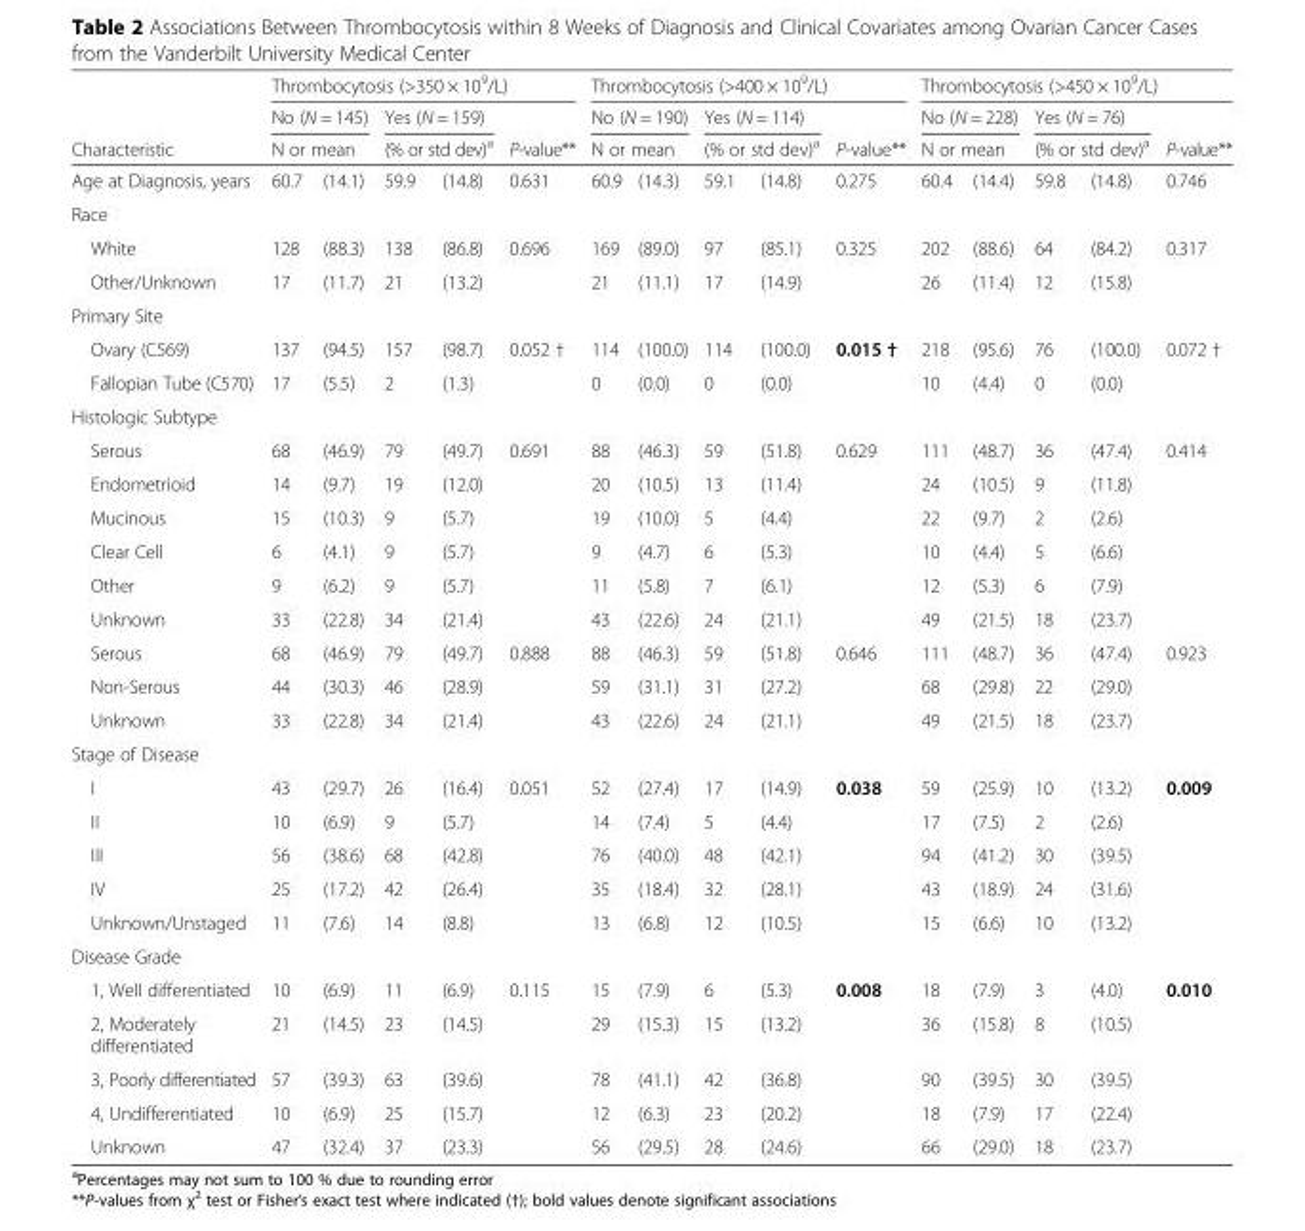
<table><thead><tr><td rowspan="4">Characteristic Age at Diagnosis, years</td><td colspan="5">Thrombocytosis (&gt;350 × 10<sup>9</sup>/L)</td><td colspan="5">Thrombocytosis (&gt;400 × 10<sup>9</sup>/L)</td><td colspan="5">Thrombocytosis (&gt;450 × 10<sup>9</sup>/L)</td></tr><tr><td rowspan="2" colspan="2">No (N = 145) N or mean</td><td rowspan="2" colspan="2">Yes (N = 159) (% or std dev)<sup>a</sup></td><td rowspan="3">P-value** 0.631</td><td rowspan="2" colspan="2">No (N = 190) N or mean</td><td rowspan="2" colspan="2">Yes (N = 114) (% or std dev)<sup>a</sup></td><td rowspan="3">P-value** 0.275</td><td rowspan="2" colspan="2">No (N = 228) N or mean</td><td rowspan="2" colspan="2">Yes (N = 76) (% or std dev)<sup>a</sup></td><td rowspan="3">P-value** 0.746</td></tr><tr></tr><tr><td>60.7</td><td>(14.1)</td><td>59.9</td><td>(14.8)</td><td>60.9</td><td>(14.3)</td><td>59.1</td><td>(14.8)</td><td>60.4</td><td>(14.4)</td><td>59.8</td><td>(14.8)</td></tr></thead><tbody><tr><td colspan="16">Race</td></tr><tr><td>White</td><td>128</td><td>(88.3)</td><td>138</td><td>(86.8)</td><td rowspan="2">0.696</td><td>169</td><td>(89.0)</td><td>97</td><td>(85.1)</td><td rowspan="2">0.325</td><td>202</td><td>(88.6)</td><td>64</td><td>(84.2)</td><td rowspan="2">0.317</td></tr><tr><td>Other/Unknown</td><td>17</td><td>(11.7)</td><td>21</td><td>(13.2)</td><td>21</td><td>(11.1)</td><td>17</td><td>(14.9)</td><td>26</td><td>(11.4)</td><td>12</td><td>(15.8)</td></tr><tr><td colspan="16">Primary Site</td></tr><tr><td>Ovary (C569)</td><td>137</td><td>(94.5)</td><td>157</td><td>(98.7)</td><td rowspan="2">0.052 †</td><td>114</td><td>(100.0)</td><td>114</td><td>(100.0)</td><td rowspan="2">0.015 †</td><td>218</td><td>(95.6)</td><td>76</td><td>(100.0)</td><td rowspan="2">0.072 †</td></tr><tr><td>Fallopian Tube (C570)</td><td>17</td><td>(5.5)</td><td>2</td><td>(1.3)</td><td>0</td><td>(0.0)</td><td>0</td><td>(0.0)</td><td>10</td><td>(4.4)</td><td>0</td><td>(0.0)</td></tr><tr><td colspan="16">Histologic Subtype</td></tr><tr><td>Serous</td><td>68</td><td>(46.9)</td><td>79</td><td>(49.7)</td><td rowspan="6">0.691</td><td>88</td><td>(46.3)</td><td>59</td><td>(51.8)</td><td rowspan="6">0.629</td><td>111</td><td>(48.7)</td><td>36</td><td>(47.4)</td><td rowspan="6">0.414</td></tr><tr><td>Endometrioid</td><td>14</td><td>(9.7)</td><td>19</td><td>(12.0)</td><td>20</td><td>(10.5)</td><td>13</td><td>(11.4)</td><td>24</td><td>(10.5)</td><td>9</td><td>(11.8)</td></tr><tr><td>Mucinous</td><td>15</td><td>(10.3)</td><td>9</td><td>(5.7)</td><td>19</td><td>(10.0)</td><td>5</td><td>(4.4)</td><td>22</td><td>(9.7)</td><td>2</td><td>(2.6)</td></tr><tr><td>Clear Cell</td><td>6</td><td>(4.1)</td><td>9</td><td>(5.7)</td><td>9</td><td>(4.7)</td><td>6</td><td>(5.3)</td><td>10</td><td>(4.4)</td><td>5</td><td>(6.6)</td></tr><tr><td>Other</td><td>9</td><td>(6.2)</td><td>9</td><td>(5.7)</td><td>11</td><td>(5.8)</td><td>7</td><td>(6.1)</td><td>12</td><td>(5.3)</td><td>6</td><td>(7.9)</td></tr><tr><td>Unknown</td><td>33</td><td>(22.8)</td><td>34</td><td>(21.4)</td><td>43</td><td>(22.6)</td><td>24</td><td>(21.1)</td><td>49</td><td>(21.5)</td><td>18</td><td>(23.7)</td></tr><tr><td>Serous</td><td>68</td><td>(46.9)</td><td>79</td><td>(49.7)</td><td rowspan="3">0.888</td><td>88</td><td>(46.3)</td><td>59</td><td>(51.8)</td><td rowspan="3">0.646</td><td>111</td><td>(48.7)</td><td>36</td><td>(47.4)</td><td rowspan="3">0.923</td></tr><tr><td>Non-Serous</td><td>44</td><td>(30.3)</td><td>46</td><td>(28.9)</td><td>59</td><td>(31.1)</td><td>31</td><td>(27.2)</td><td>68</td><td>(29.8)</td><td>22</td><td>(29.0)</td></tr><tr><td>Unknown</td><td>33</td><td>(22.8)</td><td>34</td><td>(21.4)</td><td>43</td><td>(22.6)</td><td>24</td><td>(21.1)</td><td>49</td><td>(21.5)</td><td>18</td><td>(23.7)</td></tr><tr><td colspan="16">Stage of Disease</td></tr><tr><td>I</td><td>43</td><td>(29.7)</td><td>26</td><td>(16.4)</td><td rowspan="5">0.051</td><td>52</td><td>(27.4)</td><td>17</td><td>(14.9)</td><td rowspan="5">0.038</td><td>59</td><td>(25.9)</td><td>10</td><td>(13.2)</td><td rowspan="5">0.009</td></tr><tr><td>II</td><td>10</td><td>(6.9)</td><td>9</td><td>(5.7)</td><td>14</td><td>(7.4)</td><td>5</td><td>(4.4)</td><td>17</td><td>(7.5)</td><td>2</td><td>(2.6)</td></tr><tr><td>III</td><td>56</td><td>(38.6)</td><td>68</td><td>(42.8)</td><td>76</td><td>(40.0)</td><td>48</td><td>(42.1)</td><td>94</td><td>(41.2)</td><td>30</td><td>(39.5)</td></tr><tr><td>IV</td><td>25</td><td>(17.2)</td><td>42</td><td>(26.4)</td><td>35</td><td>(18.4)</td><td>32</td><td>(28.1)</td><td>43</td><td>(18.9)</td><td>24</td><td>(31.6)</td></tr><tr><td>Unknown/Unstaged</td><td>11</td><td>(7.6)</td><td>14</td><td>(8.8)</td><td>13</td><td>(6.8)</td><td>12</td><td>(10.5)</td><td>15</td><td>(6.6)</td><td>10</td><td>(13.2)</td></tr><tr><td colspan="16">Disease Grade</td></tr><tr><td>1, Well differentiated</td><td>10</td><td>(6.9)</td><td>11</td><td>(6.9)</td><td rowspan="5">0.115</td><td>15</td><td>(7.9)</td><td>6</td><td>(5.3)</td><td rowspan="5">0.008</td><td>18</td><td>(7.9)</td><td>3</td><td>(4.0)</td><td rowspan="5">0.010</td></tr><tr><td>2, Moderately differentiated</td><td>21</td><td>(14.5)</td><td>23</td><td>(14.5)</td><td>29</td><td>(15.3)</td><td>15</td><td>(13.2)</td><td>36</td><td>(15.8)</td><td>8</td><td>(10.5)</td></tr><tr><td>3, Poorly differentiated</td><td>57</td><td>(39.3)</td><td>63</td><td>(39.6)</td><td>78</td><td>(41.1)</td><td>42</td><td>(36.8)</td><td>90</td><td>(39.5)</td><td>30</td><td>(39.5)</td></tr><tr><td>4, Undifferentiated</td><td>10</td><td>(6.9)</td><td>25</td><td>(15.7)</td><td>12</td><td>(6.3)</td><td>23</td><td>(20.2)</td><td>18</td><td>(7.9)</td><td>17</td><td>(22.4)</td></tr><tr><td>Unknown</td><td>47</td><td>(32.4)</td><td>37</td><td>(23.3)</td><td>56</td><td>(29.5)</td><td>28</td><td>(24.6)</td><td>66</td><td>(29.0)</td><td>18</td><td>(23.7)</td></tr></tbody></table>